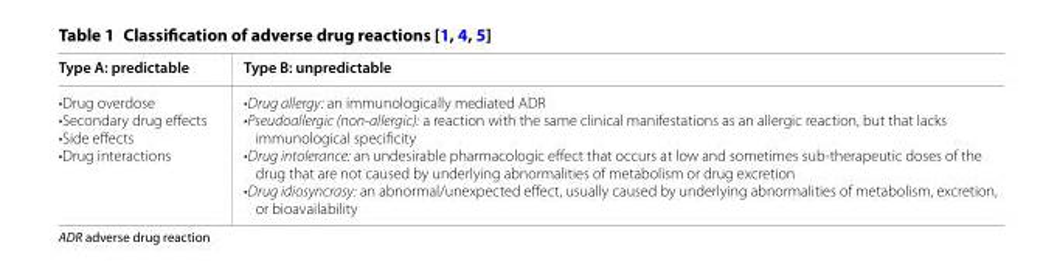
<table><thead><tr><td>Type A: predictable</td><td>Type B: unpredictable</td></tr></thead><tbody><tr><td>•Drug overdose •Secondary drug effects •Side effects •Drug interactions</td><td>•Drug allergy: an immunologically mediated ADR •Pseudoallergic (non‑allergic): a reaction with the same clinical manifestations as an allergic reaction, but that lacks immunological specificity •Drug intolerance: an undesirable pharmacologic effect that occurs at low and sometimes sub‑therapeutic doses of the drug that are not caused by underlying abnormalities of metabolism or drug excretion •Drug idiosyncrasy: an abnormal/unexpected effect, usually caused by underlying abnormalities of metabolism, excretion, or bioavailability</td></tr></tbody></table>